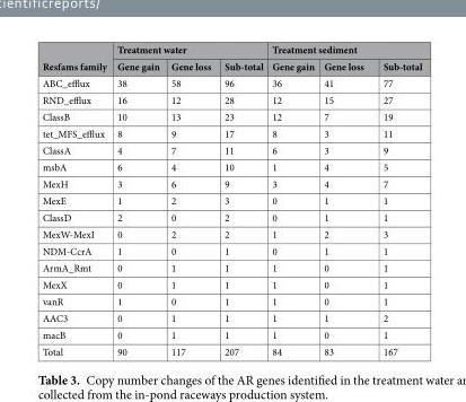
<table><thead><tr><td rowspan="2">Resfams family</td><td colspan="3">Treatment water</td><td colspan="3">Treatment sediment</td></tr><tr><td>Gene gain</td><td>Gene loss</td><td>Sub-total</td><td>Gene gain</td><td>Gene loss</td><td>Sub-total</td></tr></thead><tbody><tr><td>ABC_efflux</td><td>38</td><td>58</td><td>96</td><td>36</td><td>41</td><td>77</td></tr><tr><td>RND_efflux</td><td>16</td><td>12</td><td>28</td><td>12</td><td>15</td><td>27</td></tr><tr><td>ClassB</td><td>10</td><td>13</td><td>23</td><td>12</td><td>7</td><td>19</td></tr><tr><td>tet_MFS_efflux</td><td>8</td><td>9</td><td>17</td><td>8</td><td>3</td><td>11</td></tr><tr><td>ClassA</td><td>4</td><td>7</td><td>11</td><td>6</td><td>3</td><td>9</td></tr><tr><td>msbA</td><td>6</td><td>4</td><td>10</td><td>1</td><td>4</td><td>5</td></tr><tr><td>MexH</td><td>3</td><td>6</td><td>9</td><td>3</td><td>4</td><td>7</td></tr><tr><td>MexE</td><td>1</td><td>2</td><td>3</td><td>0</td><td>1</td><td>1</td></tr><tr><td>ClassD</td><td>2</td><td>0</td><td>2</td><td>0</td><td>1</td><td>1</td></tr><tr><td>MexW-MexI</td><td>0</td><td>2</td><td>2</td><td>1</td><td>2</td><td>3</td></tr><tr><td>NDM-CcrA</td><td>1</td><td>0</td><td>1</td><td>0</td><td>1</td><td>1</td></tr><tr><td>ArmA_Rmt</td><td>0</td><td>1</td><td>1</td><td>1</td><td>0</td><td>1</td></tr><tr><td>MexX</td><td>0</td><td>1</td><td>1</td><td>1</td><td>0</td><td>1</td></tr><tr><td>vanR</td><td>1</td><td>0</td><td>1</td><td>1</td><td>0</td><td>1</td></tr><tr><td>AAC3</td><td>0</td><td>1</td><td>1</td><td>1</td><td>1</td><td>2</td></tr><tr><td>macB</td><td>0</td><td>1</td><td>1</td><td>1</td><td>0</td><td>1</td></tr><tr><td>Total</td><td>90</td><td>117</td><td>207</td><td>84</td><td>83</td><td>167</td></tr></tbody></table>